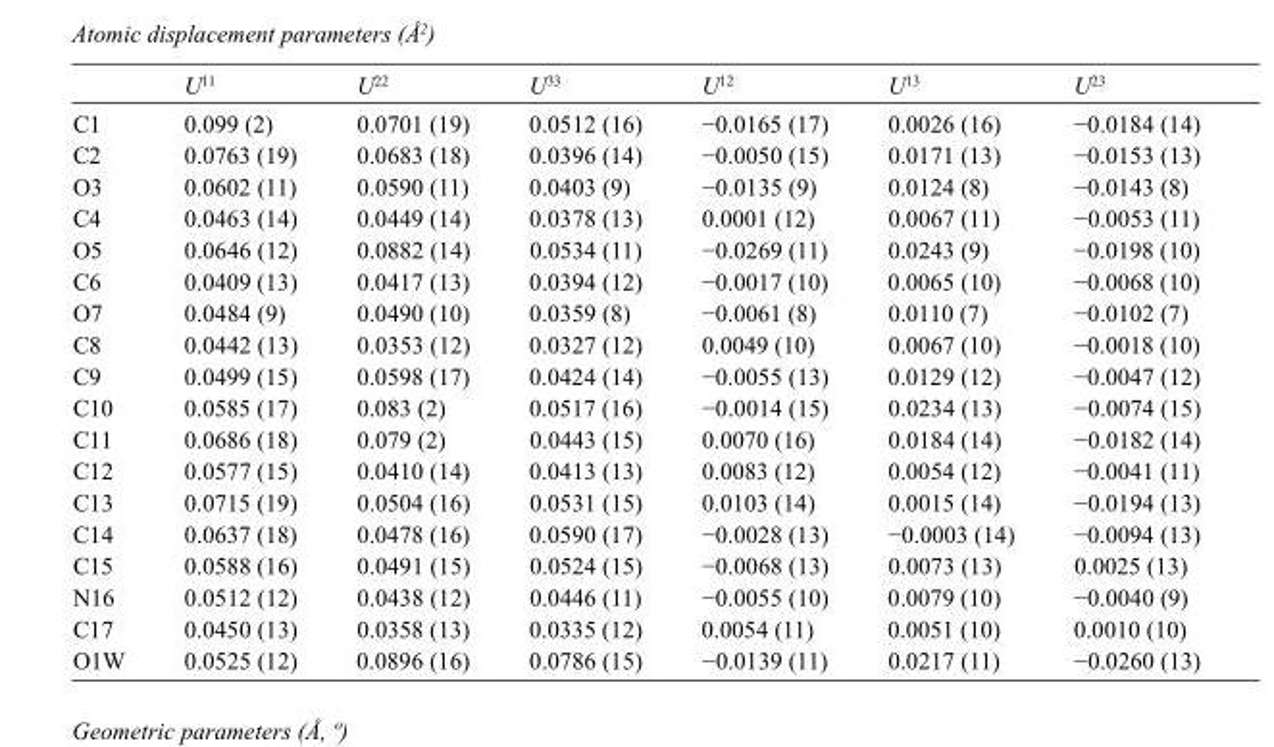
<table><thead><tr><td></td><td>U<sup>11</sup></td><td>U<sup>22</sup></td><td>U<sup>33</sup></td><td>U<sup>12</sup></td><td>U<sup>13</sup></td><td>U<sup>23</sup></td></tr></thead><tbody><tr><td>C1</td><td>0.099 (2)</td><td>0.0701 (19)</td><td>0.0512 (16)</td><td>−0.0165 (17)</td><td>0.0026 (16)</td><td>−0.0184 (14)</td></tr><tr><td>C2</td><td>0.0763 (19)</td><td>0.0683 (18)</td><td>0.0396 (14)</td><td>−0.0050 (15)</td><td>0.0171 (13)</td><td>−0.0153 (13)</td></tr><tr><td>O3</td><td>0.0602 (11)</td><td>0.0590 (11)</td><td>0.0403 (9)</td><td>−0.0135 (9)</td><td>0.0124 (8)</td><td>−0.0143 (8)</td></tr><tr><td>C4</td><td>0.0463 (14)</td><td>0.0449 (14)</td><td>0.0378 (13)</td><td>0.0001 (12)</td><td>0.0067 (11)</td><td>−0.0053 (11)</td></tr><tr><td>O5</td><td>0.0646 (12)</td><td>0.0882 (14)</td><td>0.0534 (11)</td><td>−0.0269 (11)</td><td>0.0243 (9)</td><td>−0.0198 (10)</td></tr><tr><td>C6</td><td>0.0409 (13)</td><td>0.0417 (13)</td><td>0.0394 (12)</td><td>−0.0017 (10)</td><td>0.0065 (10)</td><td>−0.0068 (10)</td></tr><tr><td>O7</td><td>0.0484 (9)</td><td>0.0490 (10)</td><td>0.0359 (8)</td><td>−0.0061 (8)</td><td>0.0110 (7)</td><td>−0.0102 (7)</td></tr><tr><td>C8</td><td>0.0442 (13)</td><td>0.0353 (12)</td><td>0.0327 (12)</td><td>0.0049 (10)</td><td>0.0067 (10)</td><td>−0.0018 (10)</td></tr><tr><td>C9</td><td>0.0499 (15)</td><td>0.0598 (17)</td><td>0.0424 (14)</td><td>−0.0055 (13)</td><td>0.0129 (12)</td><td>−0.0047 (12)</td></tr><tr><td>C10</td><td>0.0585 (17)</td><td>0.083 (2)</td><td>0.0517 (16)</td><td>−0.0014 (15)</td><td>0.0234 (13)</td><td>−0.0074 (15)</td></tr><tr><td>C11</td><td>0.0686 (18)</td><td>0.079 (2)</td><td>0.0443 (15)</td><td>0.0070 (16)</td><td>0.0184 (14)</td><td>−0.0182 (14)</td></tr><tr><td>C12</td><td>0.0577 (15)</td><td>0.0410 (14)</td><td>0.0413 (13)</td><td>0.0083 (12)</td><td>0.0054 (12)</td><td>−0.0041 (11)</td></tr><tr><td>C13</td><td>0.0715 (19)</td><td>0.0504 (16)</td><td>0.0531 (15)</td><td>0.0103 (14)</td><td>0.0015 (14)</td><td>−0.0194 (13)</td></tr><tr><td>C14</td><td>0.0637 (18)</td><td>0.0478 (16)</td><td>0.0590 (17)</td><td>−0.0028 (13)</td><td>−0.0003 (14)</td><td>−0.0094 (13)</td></tr><tr><td>C15</td><td>0.0588 (16)</td><td>0.0491 (15)</td><td>0.0524 (15)</td><td>−0.0068 (13)</td><td>0.0073 (13)</td><td>0.0025 (13)</td></tr><tr><td>N16</td><td>0.0512 (12)</td><td>0.0438 (12)</td><td>0.0446 (11)</td><td>−0.0055 (10)</td><td>0.0079 (10)</td><td>−0.0040 (9)</td></tr><tr><td>C17</td><td>0.0450 (13)</td><td>0.0358 (13)</td><td>0.0335 (12)</td><td>0.0054 (11)</td><td>0.0051 (10)</td><td>0.0010 (10)</td></tr><tr><td>O1W</td><td>0.0525 (12)</td><td>0.0896 (16)</td><td>0.0786 (15)</td><td>−0.0139 (11)</td><td>0.0217 (11)</td><td>−0.0260 (13)</td></tr></tbody></table>